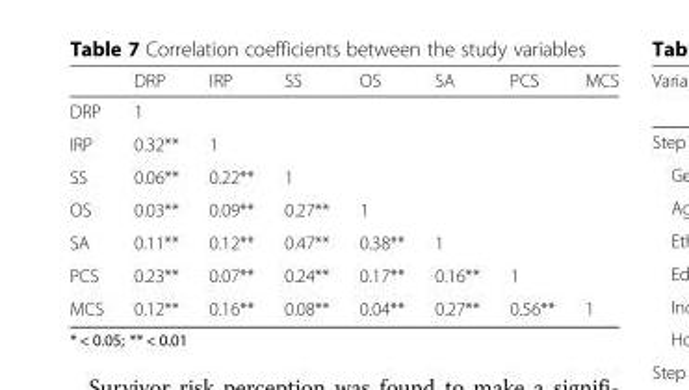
<table><thead><tr><td></td><td>DRP</td><td>IRP</td><td>SS</td><td>OS</td><td>SA</td><td>PCS</td><td>MCS</td></tr></thead><tbody><tr><td>DRP</td><td>1</td><td></td><td></td><td></td><td></td><td></td><td></td></tr><tr><td>IRP</td><td>0.32**</td><td>1</td><td></td><td></td><td></td><td></td><td></td></tr><tr><td>SS</td><td>0.06**</td><td>0.22**</td><td>1</td><td></td><td></td><td></td><td></td></tr><tr><td>OS</td><td>0.03**</td><td>0.09**</td><td>0.27**</td><td>1</td><td></td><td></td><td></td></tr><tr><td>SA</td><td>0.11**</td><td>0.12**</td><td>0.47**</td><td>0.38**</td><td>1</td><td></td><td></td></tr><tr><td>PCS</td><td>0.23**</td><td>0.07**</td><td>0.24**</td><td>0.17**</td><td>0.16**</td><td>1</td><td></td></tr><tr><td>MCS</td><td>0.12**</td><td>0.16**</td><td>0.08**</td><td>0.04**</td><td>0.27**</td><td>0.56**</td><td>1</td></tr></tbody></table>